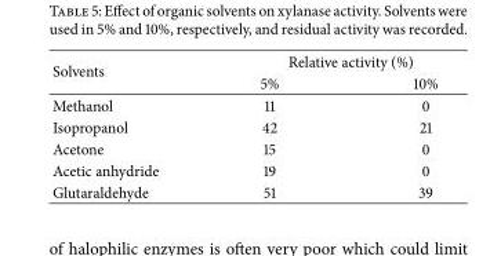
<table><thead><tr><td rowspan="2">Solvents</td><td colspan="2">Relative activity (%)</td></tr><tr><td>5%</td><td>10%</td></tr></thead><tbody><tr><td>Methanol</td><td>11</td><td>0</td></tr><tr><td>Isopropanol</td><td>42</td><td>21</td></tr><tr><td>Acetone</td><td>15</td><td>0</td></tr><tr><td>Acetic anhydride</td><td>19</td><td>0</td></tr><tr><td>Glutaraldehyde</td><td>51</td><td>39</td></tr></tbody></table>